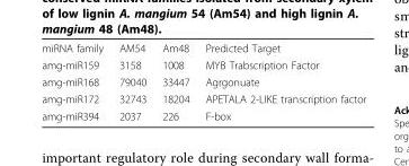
<table><tbody><tr><td>miRNA family</td><td>AM54</td><td>Am48</td><td>Predicted Target</td></tr><tr><td>amg-miR159</td><td>3158</td><td>1008</td><td>MYB Trabscription Factor</td></tr><tr><td>amg-miR168</td><td>79040</td><td>33447</td><td>Agrgonuate</td></tr><tr><td>amg-miR172</td><td>32743</td><td>18204</td><td>APETALA 2-LIKE transcription factor</td></tr><tr><td>amg-miR394</td><td>2037</td><td>226</td><td>F-box</td></tr></tbody></table>